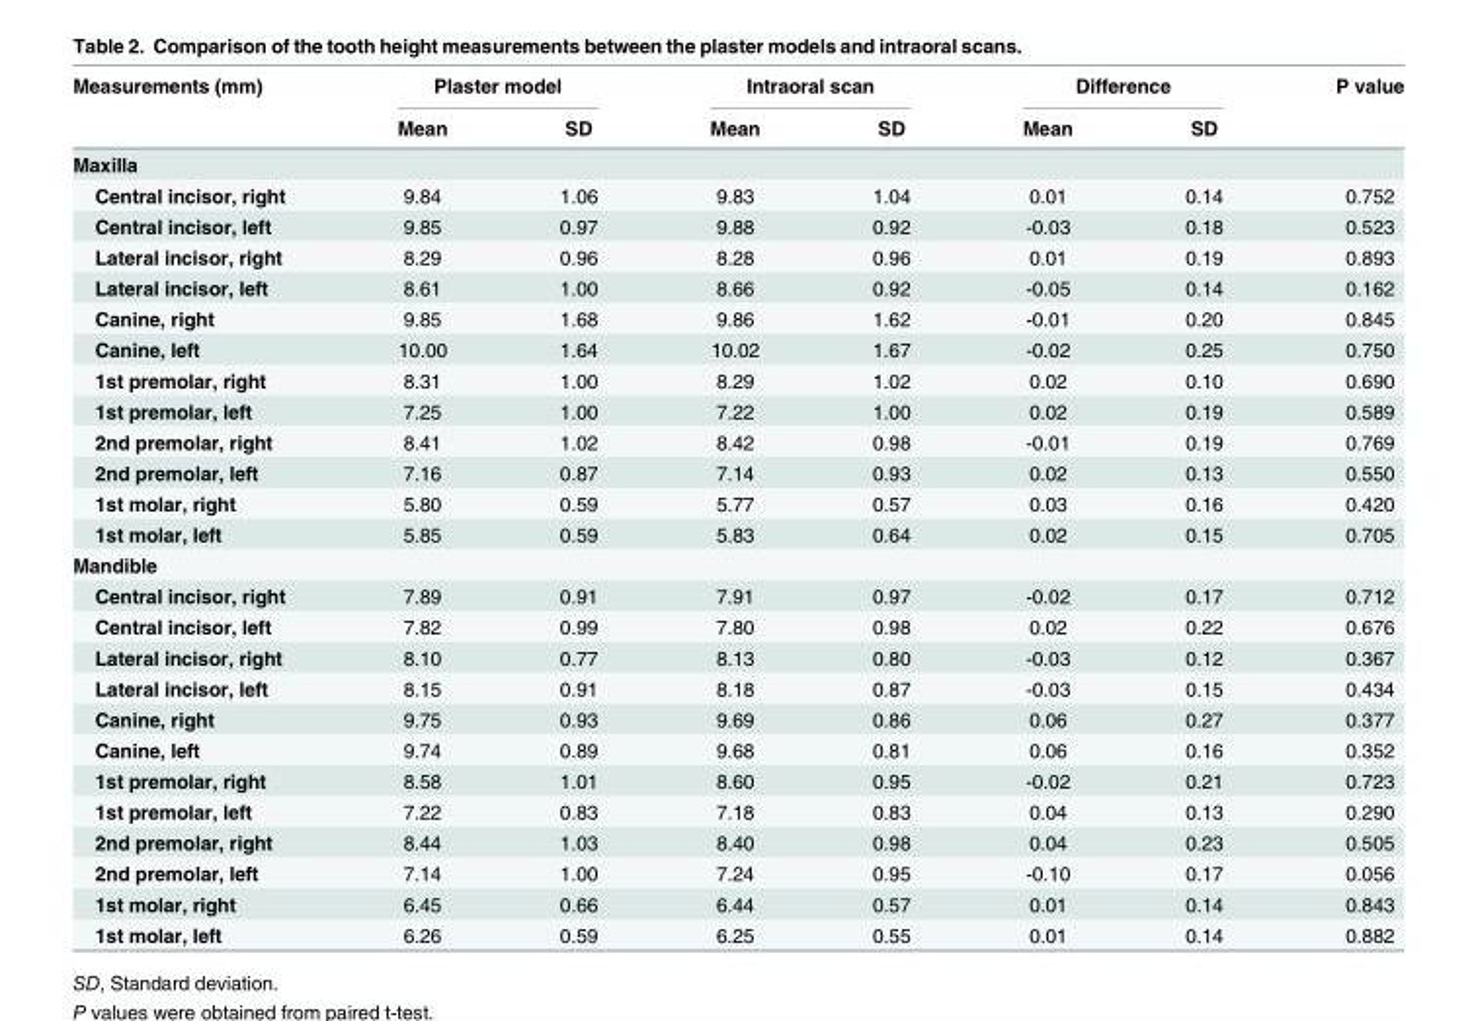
<table><thead><tr><td rowspan="2">Measurements (mm)</td><td colspan="2">Plaster model</td><td colspan="2">Intraoral scan</td><td colspan="2">Difference</td><td rowspan="2">P value</td></tr><tr><td>Mean</td><td>SD</td><td>Mean</td><td>SD</td><td>Mean</td><td>SD</td></tr></thead><tbody><tr><td colspan="8">Maxilla</td></tr><tr><td>Central incisor, right</td><td>9.84</td><td>1.06</td><td>9.83</td><td>1.04</td><td>0.01</td><td>0.14</td><td>0.752</td></tr><tr><td>Central incisor, left</td><td>9.85</td><td>0.97</td><td>9.88</td><td>0.92</td><td>-0.03</td><td>0.18</td><td>0.523</td></tr><tr><td>Lateral incisor, right</td><td>8.29</td><td>0.96</td><td>8.28</td><td>0.96</td><td>0.01</td><td>0.19</td><td>0.893</td></tr><tr><td>Lateral incisor, left</td><td>8.61</td><td>1.00</td><td>8.66</td><td>0.92</td><td>-0.05</td><td>0.14</td><td>0.162</td></tr><tr><td>Canine, right</td><td>9.85</td><td>1.68</td><td>9.86</td><td>1.62</td><td>-0.01</td><td>0.20</td><td>0.845</td></tr><tr><td>Canine, left</td><td>10.00</td><td>1.64</td><td>10.02</td><td>1.67</td><td>-0.02</td><td>0.25</td><td>0.750</td></tr><tr><td>1st premolar, right</td><td>8.31</td><td>1.00</td><td>8.29</td><td>1.02</td><td>0.02</td><td>0.10</td><td>0.690</td></tr><tr><td>1st premolar, left</td><td>7.25</td><td>1.00</td><td>7.22</td><td>1.00</td><td>0.02</td><td>0.19</td><td>0.589</td></tr><tr><td>2nd premolar, right</td><td>8.41</td><td>1.02</td><td>8.42</td><td>0.98</td><td>-0.01</td><td>0.19</td><td>0.769</td></tr><tr><td>2nd premolar, left</td><td>7.16</td><td>0.87</td><td>7.14</td><td>0.93</td><td>0.02</td><td>0.13</td><td>0.550</td></tr><tr><td>1st molar, right</td><td>5.80</td><td>0.59</td><td>5.77</td><td>0.57</td><td>0.03</td><td>0.16</td><td>0.420</td></tr><tr><td>1st molar, left</td><td>5.85</td><td>0.59</td><td>5.83</td><td>0.64</td><td>0.02</td><td>0.15</td><td>0.705</td></tr><tr><td colspan="8">Mandible</td></tr><tr><td>Central incisor, right</td><td>7.89</td><td>0.91</td><td>7.91</td><td>0.97</td><td>-0.02</td><td>0.17</td><td>0.712</td></tr><tr><td>Central incisor, left</td><td>7.82</td><td>0.99</td><td>7.80</td><td>0.98</td><td>0.02</td><td>0.22</td><td>0.676</td></tr><tr><td>Lateral incisor, right</td><td>8.10</td><td>0.77</td><td>8.13</td><td>0.80</td><td>-0.03</td><td>0.12</td><td>0.367</td></tr><tr><td>Lateral incisor, left</td><td>8.15</td><td>0.91</td><td>8.18</td><td>0.87</td><td>-0.03</td><td>0.15</td><td>0.434</td></tr><tr><td>Canine, right</td><td>9.75</td><td>0.93</td><td>9.69</td><td>0.86</td><td>0.06</td><td>0.27</td><td>0.377</td></tr><tr><td>Canine, left</td><td>9.74</td><td>0.89</td><td>9.68</td><td>0.81</td><td>0.06</td><td>0.16</td><td>0.352</td></tr><tr><td>1st premolar, right</td><td>8.58</td><td>1.01</td><td>8.60</td><td>0.95</td><td>-0.02</td><td>0.21</td><td>0.723</td></tr><tr><td>1st premolar, left</td><td>7.22</td><td>0.83</td><td>7.18</td><td>0.83</td><td>0.04</td><td>0.13</td><td>0.290</td></tr><tr><td>2nd premolar, right</td><td>8.44</td><td>1.03</td><td>8.40</td><td>0.98</td><td>0.04</td><td>0.23</td><td>0.505</td></tr><tr><td>2nd premolar, left</td><td>7.14</td><td>1.00</td><td>7.24</td><td>0.95</td><td>-0.10</td><td>0.17</td><td>0.056</td></tr><tr><td>1st molar, right</td><td>6.45</td><td>0.66</td><td>6.44</td><td>0.57</td><td>0.01</td><td>0.14</td><td>0.843</td></tr><tr><td>1st molar, left</td><td>6.26</td><td>0.59</td><td>6.25</td><td>0.55</td><td>0.01</td><td>0.14</td><td>0.882</td></tr></tbody></table>